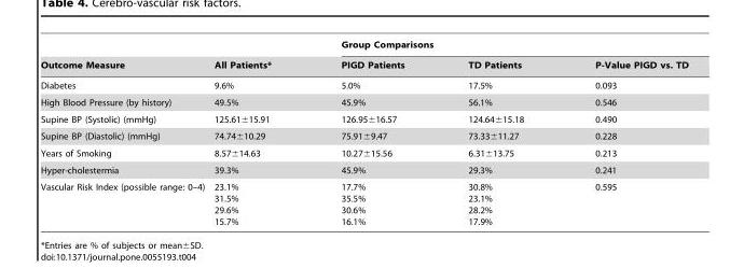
<table><thead><tr><td rowspan="2">Outcome Measure</td><td rowspan="2">All Patients*</td><td colspan="3">Group Comparisons</td></tr><tr><td>PIGD Patients</td><td>TD Patients</td><td>P-Value PIGD vs. TD</td></tr></thead><tbody><tr><td>Diabetes</td><td>9.6%</td><td>5.0%</td><td>17.5%</td><td>0.093</td></tr><tr><td>High Blood Pressure (by history)</td><td>49.5%</td><td>45.9%</td><td>56.1%</td><td>0.546</td></tr><tr><td>Supine BP (Systolic) (mmHg)</td><td>125.61±15.91</td><td>126.95±16.57</td><td>124.64±15.18</td><td>0.490</td></tr><tr><td>Supine BP (Diastolic) (mmHg)</td><td>74.74±10.29</td><td>75.91±9.47</td><td>73.33±11.27</td><td>0.228</td></tr><tr><td>Years of Smoking</td><td>8.57±14.63</td><td>10.27±15.56</td><td>6.31±13.75</td><td>0.213</td></tr><tr><td>Hyper-cholestermia</td><td>39.3%</td><td>45.9%</td><td>29.3%</td><td>0.241</td></tr><tr><td>Vascular Risk Index (possible range: 0–4)</td><td>23.1% 31.5% 29.6% 15.7%</td><td>17.7% 35.5% 30.6% 16.1%</td><td>30.8% 23.1% 28.2% 17.9%</td><td>0.595</td></tr></tbody></table>